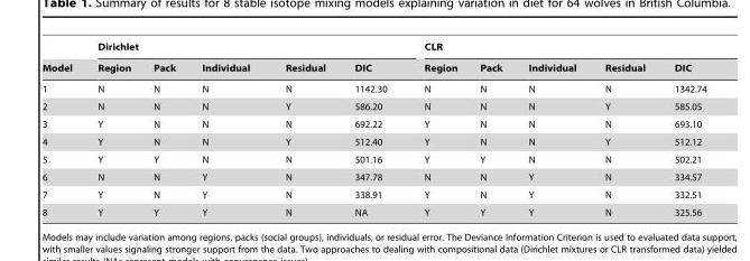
<table><thead><tr><td rowspan="2">Model</td><td colspan="5">Dirichlet</td><td colspan="5">CLR</td></tr><tr><td>Region</td><td>Pack</td><td>Individual</td><td>Residual</td><td>DIC</td><td>Region</td><td>Pack</td><td>Individual</td><td>Residual</td><td>DIC</td></tr></thead><tbody><tr><td>1</td><td>N</td><td>N</td><td>N</td><td>N</td><td>1142.30</td><td>N</td><td>N</td><td>N</td><td>N</td><td>1342.74</td></tr><tr><td>2</td><td>N</td><td>N</td><td>N</td><td>Y</td><td>586.20</td><td>N</td><td>N</td><td>N</td><td>Y</td><td>585.05</td></tr><tr><td>3</td><td>Y</td><td>N</td><td>N</td><td>N</td><td>692.22</td><td>Y</td><td>N</td><td>N</td><td>N</td><td>693.10</td></tr><tr><td>4</td><td>Y</td><td>N</td><td>N</td><td>Y</td><td>512.40</td><td>Y</td><td>N</td><td>N</td><td>Y</td><td>512.12</td></tr><tr><td>5</td><td>Y</td><td>Y</td><td>N</td><td>N</td><td>501.16</td><td>Y</td><td>Y</td><td>N</td><td>N</td><td>502.21</td></tr><tr><td>6</td><td>N</td><td>N</td><td>Y</td><td>N</td><td>347.78</td><td>N</td><td>N</td><td>Y</td><td>N</td><td>334.57</td></tr><tr><td>7</td><td>Y</td><td>N</td><td>Y</td><td>N</td><td>338.91</td><td>Y</td><td>N</td><td>Y</td><td>N</td><td>332.51</td></tr><tr><td>8</td><td>Y</td><td>Y</td><td>Y</td><td>N</td><td>NA</td><td>Y</td><td>Y</td><td>Y</td><td>N</td><td>325.56</td></tr></tbody></table>